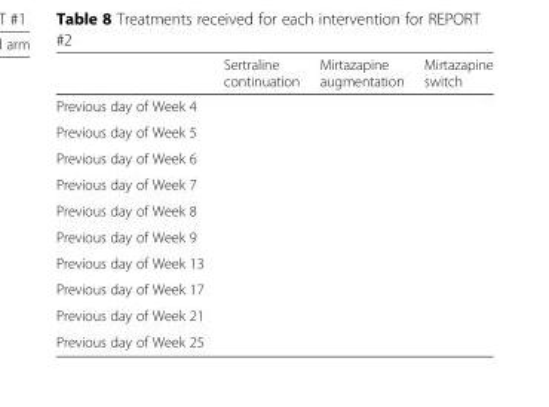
<table><thead><tr><td></td><td>Sertraline continuation</td><td>Mirtazapine augmentation</td><td>Mirtazapine switch</td></tr></thead><tbody><tr><td colspan="4">Previous day of Week 4</td></tr><tr><td colspan="4">Previous day of Week 5</td></tr><tr><td colspan="4">Previous day of Week 6</td></tr><tr><td colspan="4">Previous day of Week 7</td></tr><tr><td colspan="4">Previous day of Week 8</td></tr><tr><td colspan="4">Previous day of Week 9</td></tr><tr><td colspan="4">Previous day of Week 13</td></tr><tr><td colspan="4">Previous day of Week 17</td></tr><tr><td colspan="4">Previous day of Week 21</td></tr><tr><td>Previous day of Week 25</td><td></td><td></td><td></td></tr></tbody></table>